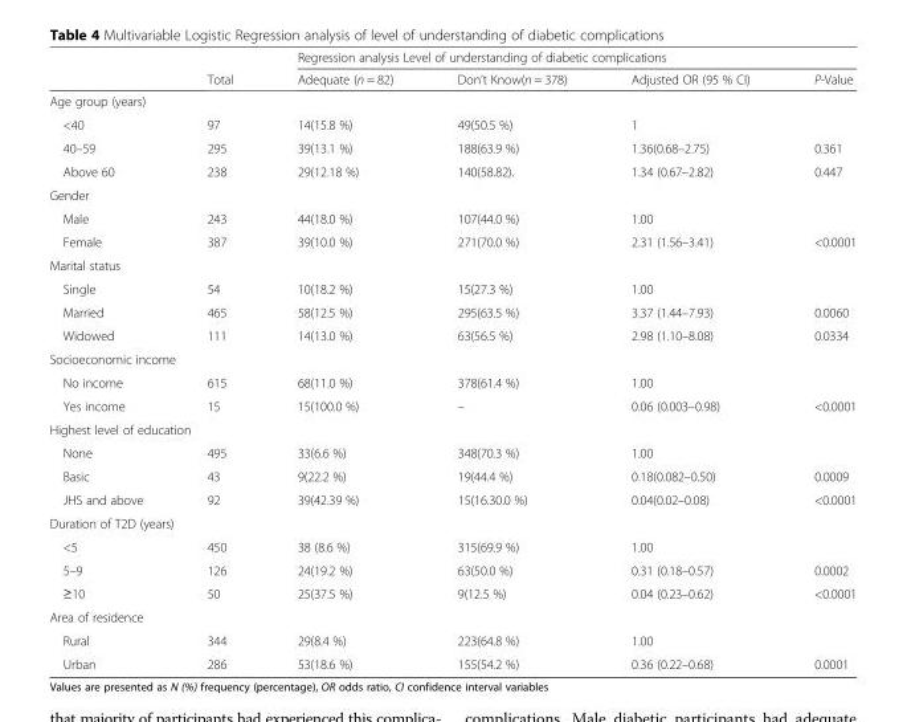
<table><thead><tr><td rowspan="2"></td><td rowspan="2">Total</td><td colspan="4">Regression analysis Level of understanding of diabetic complications</td></tr><tr><td>Adequate (n = 82)</td><td>Don’t Know(n = 378)</td><td>Adjusted OR (95 % CI)</td><td>P-Value</td></tr></thead><tbody><tr><td colspan="6">Age group (years)</td></tr><tr><td>&lt;40</td><td>97</td><td>14(15.8 %)</td><td>49(50.5 %)</td><td>1</td><td></td></tr><tr><td>40–59</td><td>295</td><td>39(13.1 %)</td><td>188(63.9 %)</td><td>1.36(0.68–2.75)</td><td>0.361</td></tr><tr><td>Above 60</td><td>238</td><td>29(12.18 %)</td><td>140(58.82).</td><td>1.34 (0.67–2.82)</td><td>0.447</td></tr><tr><td colspan="6">Gender</td></tr><tr><td>Male</td><td>243</td><td>44(18.0 %)</td><td>107(44.0 %)</td><td>1.00</td><td></td></tr><tr><td>Female</td><td>387</td><td>39(10.0 %)</td><td>271(70.0 %)</td><td>2.31 (1.56–3.41)</td><td>&lt;0.0001</td></tr><tr><td colspan="6">Marital status</td></tr><tr><td>Single</td><td>54</td><td>10(18.2 %)</td><td>15(27.3 %)</td><td>1.00</td><td></td></tr><tr><td>Married</td><td>465</td><td>58(12.5 %)</td><td>295(63.5 %)</td><td>3.37 (1.44–7.93)</td><td>0.0060</td></tr><tr><td>Widowed</td><td>111</td><td>14(13.0 %)</td><td>63(56.5 %)</td><td>2.98 (1.10–8.08)</td><td>0.0334</td></tr><tr><td colspan="6">Socioeconomic income</td></tr><tr><td>No income</td><td>615</td><td>68(11.0 %)</td><td>378(61.4 %)</td><td>1.00</td><td></td></tr><tr><td>Yes income</td><td>15</td><td>15(100.0 %)</td><td>–</td><td>0.06 (0.003–0.98)</td><td>&lt;0.0001</td></tr><tr><td colspan="6">Highest level of education</td></tr><tr><td>None</td><td>495</td><td>33(6.6 %)</td><td>348(70.3 %)</td><td>1.00</td><td></td></tr><tr><td>Basic</td><td>43</td><td>9(22.2 %)</td><td>19(44.4 %)</td><td>0.18(0.082–0.50)</td><td>0.0009</td></tr><tr><td>JHS and above</td><td>92</td><td>39(42.39 %)</td><td>15(16.30.0 %)</td><td>0.04(0.02–0.08)</td><td>&lt;0.0001</td></tr><tr><td colspan="6">Duration of T2D (years)</td></tr><tr><td>&lt;5</td><td>450</td><td>38 (8.6 %)</td><td>315(69.9 %)</td><td>1.00</td><td></td></tr><tr><td>5–9</td><td>126</td><td>24(19.2 %)</td><td>63(50.0 %)</td><td>0.31 (0.18–0.57)</td><td>0.0002</td></tr><tr><td>≥10</td><td>50</td><td>25(37.5 %)</td><td>9(12.5 %)</td><td>0.04 (0.23–0.62)</td><td>&lt;0.0001</td></tr><tr><td colspan="6">Area of residence</td></tr><tr><td>Rural</td><td>344</td><td>29(8.4 %)</td><td>223(64.8 %)</td><td>1.00</td><td></td></tr><tr><td>Urban</td><td>286</td><td>53(18.6 %)</td><td>155(54.2 %)</td><td>0.36 (0.22–0.68)</td><td>0.0001</td></tr></tbody></table>